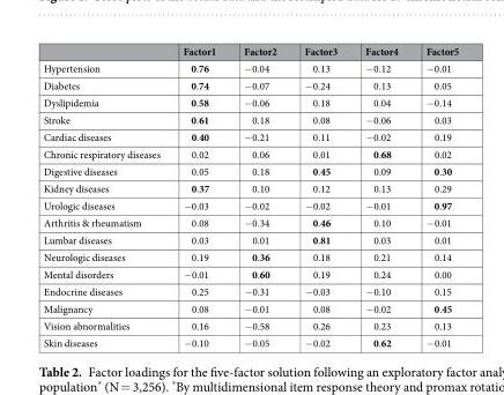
<table><thead><tr><td></td><td>Factor1</td><td>Factor2</td><td>Factor3</td><td>Factor4</td><td>Factor5</td></tr></thead><tbody><tr><td>Hypertension</td><td>0.76</td><td>−0.04</td><td>0.13</td><td>−0.12</td><td>−0.01</td></tr><tr><td>Diabetes</td><td>0.74</td><td>−0.07</td><td>−0.24</td><td>0.13</td><td>0.05</td></tr><tr><td>Dyslipidemia</td><td>0.58</td><td>−0.06</td><td>0.18</td><td>0.04</td><td>−0.14</td></tr><tr><td>Stroke</td><td>0.61</td><td>0.18</td><td>0.08</td><td>−0.06</td><td>0.03</td></tr><tr><td>Cardiac diseases</td><td>0.40</td><td>−0.21</td><td>0.11</td><td>−0.02</td><td>0.19</td></tr><tr><td>Chronic respiratory diseases</td><td>0.02</td><td>0.06</td><td>0.01</td><td>0.68</td><td>0.02</td></tr><tr><td>Digestive diseases</td><td>0.05</td><td>0.18</td><td>0.45</td><td>0.09</td><td>0.30</td></tr><tr><td>Kidney diseases</td><td>0.37</td><td>0.10</td><td>0.12</td><td>0.13</td><td>0.29</td></tr><tr><td>Urologic diseases</td><td>−0.03</td><td>−0.02</td><td>−0.02</td><td>−0.01</td><td>0.97</td></tr><tr><td>Arthritis &amp; rheumatism</td><td>0.08</td><td>−0.34</td><td>0.46</td><td>0.10</td><td>−0.01</td></tr><tr><td>Lumbar diseases</td><td>0.03</td><td>0.01</td><td>0.81</td><td>0.03</td><td>0.01</td></tr><tr><td>Neurologic diseases</td><td>0.19</td><td>0.36</td><td>0.18</td><td>0.21</td><td>0.14</td></tr><tr><td>Mental disorders</td><td>−0.01</td><td>0.60</td><td>0.19</td><td>0.24</td><td>0.00</td></tr><tr><td>Endocrine diseases</td><td>0.25</td><td>−0.31</td><td>−0.03</td><td>−0.10</td><td>0.15</td></tr><tr><td>Malignancy</td><td>0.08</td><td>−0.01</td><td>0.08</td><td>−0.02</td><td>0.45</td></tr><tr><td>Vision abnormalities</td><td>0.16</td><td>−0.58</td><td>0.26</td><td>0.23</td><td>0.13</td></tr><tr><td>Skin diseases</td><td>−0.10</td><td>−0.05</td><td>−0.02</td><td>0.62</td><td>−0.01</td></tr></tbody></table>